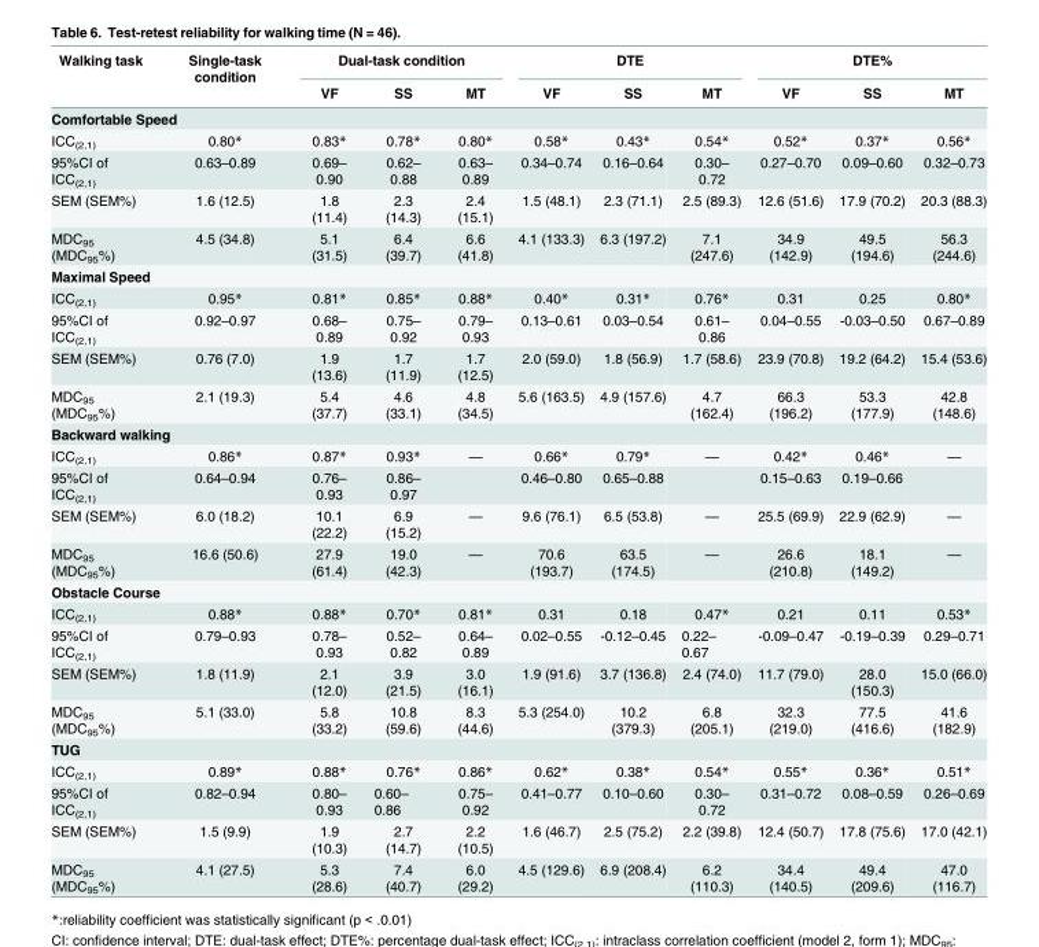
<table><thead><tr><td rowspan="2">Walking task</td><td rowspan="2">Single-task condition</td><td colspan="3">Dual-task condition</td><td colspan="3">DTE</td><td colspan="3">DTE%</td></tr><tr><td>VF</td><td>SS</td><td>MT</td><td>VF</td><td>SS</td><td>MT</td><td>VF</td><td>SS</td><td>MT</td></tr></thead><tbody><tr><td colspan="11">Comfortable Speed</td></tr><tr><td>ICC<sub>(2,1)</sub></td><td>0.80*</td><td>0.83*</td><td>0.78*</td><td>0.80*</td><td>0.58*</td><td>0.43*</td><td>0.54*</td><td>0.52*</td><td>0.37*</td><td>0.56*</td></tr><tr><td>95%CI of ICC<sub>(2,1)</sub></td><td>0.63–0.89</td><td>0.69– 0.90</td><td>0.62– 0.88</td><td>0.63– 0.89</td><td>0.34–0.74</td><td>0.16–0.64</td><td>0.30– 0.72</td><td>0.27–0.70</td><td>0.09–0.60</td><td>0.32–0.73</td></tr><tr><td>SEM (SEM%)</td><td>1.6 (12.5)</td><td>1.8 (11.4)</td><td>2.3 (14.3)</td><td>2.4 (15.1)</td><td>1.5 (48.1)</td><td>2.3 (71.1)</td><td>2.5 (89.3)</td><td>12.6 (51.6)</td><td>17.9 (70.2)</td><td>20.3 (88.3)</td></tr><tr><td>MDC<sub>95</sub> (MDC<sub>95</sub>%)</td><td>4.5 (34.8)</td><td>5.1 (31.5)</td><td>6.4 (39.7)</td><td>6.6 (41.8)</td><td>4.1 (133.3)</td><td>6.3 (197.2)</td><td>7.1 (247.6)</td><td>34.9 (142.9)</td><td>49.5 (194.6)</td><td>56.3 (244.6)</td></tr><tr><td colspan="11">Maximal Speed</td></tr><tr><td>ICC<sub>(2,1)</sub></td><td>0.95*</td><td>0.81*</td><td>0.85*</td><td>0.88*</td><td>0.40*</td><td>0.31*</td><td>0.76*</td><td>0.31</td><td>0.25</td><td>0.80*</td></tr><tr><td>95%CI of ICC<sub>(2,1)</sub></td><td>0.92–0.97</td><td>0.68– 0.89</td><td>0.75– 0.92</td><td>0.79– 0.93</td><td>0.13–0.61</td><td>0.03–0.54</td><td>0.61– 0.86</td><td>0.04–0.55</td><td>-0.03–0.50</td><td>0.67–0.89</td></tr><tr><td>SEM (SEM%)</td><td>0.76 (7.0)</td><td>1.9 (13.6)</td><td>1.7 (11.9)</td><td>1.7 (12.5)</td><td>2.0 (59.0)</td><td>1.8 (56.9)</td><td>1.7 (58.6)</td><td>23.9 (70.8)</td><td>19.2 (64.2)</td><td>15.4 (53.6)</td></tr><tr><td>MDC<sub>95</sub> (MDC<sub>95</sub>%)</td><td>2.1 (19.3)</td><td>5.4 (37.7)</td><td>4.6 (33.1)</td><td>4.8 (34.5)</td><td>5.6 (163.5)</td><td>4.9 (157.6)</td><td>4.7 (162.4)</td><td>66.3 (196.2)</td><td>53.3 (177.9)</td><td>42.8 (148.6)</td></tr><tr><td colspan="11">Backward walking</td></tr><tr><td>ICC<sub>(2,1)</sub></td><td>0.86*</td><td>0.87*</td><td>0.93*</td><td>—</td><td>0.66*</td><td>0.79*</td><td>—</td><td>0.42*</td><td>0.46*</td><td>—</td></tr><tr><td>95%CI of ICC<sub>(2,1)</sub></td><td>0.64–0.94</td><td>0.76– 0.93</td><td>0.86– 0.97</td><td></td><td>0.46–0.80</td><td>0.65–0.88</td><td></td><td>0.15–0.63</td><td>0.19–0.66</td><td></td></tr><tr><td>SEM (SEM%)</td><td>6.0 (18.2)</td><td>10.1 (22.2)</td><td>6.9 (15.2)</td><td>—</td><td>9.6 (76.1)</td><td>6.5 (53.8)</td><td>—</td><td>25.5 (69.9)</td><td>22.9 (62.9)</td><td>—</td></tr><tr><td>MDC<sub>95</sub> (MDC<sub>95</sub>%)</td><td>16.6 (50.6)</td><td>27.9 (61.4)</td><td>19.0 (42.3)</td><td>—</td><td>70.6 (193.7)</td><td>63.5 (174.5)</td><td>—</td><td>26.6 (210.8)</td><td>18.1 (149.2)</td><td>—</td></tr><tr><td colspan="11">Obstacle Course</td></tr><tr><td>ICC<sub>(2,1)</sub></td><td>0.88*</td><td>0.88*</td><td>0.70*</td><td>0.81*</td><td>0.31</td><td>0.18</td><td>0.47*</td><td>0.21</td><td>0.11</td><td>0.53*</td></tr><tr><td>95%CI of ICC<sub>(2,1)</sub></td><td>0.79–0.93</td><td>0.78– 0.93</td><td>0.52– 0.82</td><td>0.64– 0.89</td><td>0.02–0.55</td><td>-0.12–0.45</td><td>0.22– 0.67</td><td>-0.09–0.47</td><td>-0.19–0.39</td><td>0.29–0.71</td></tr><tr><td>SEM (SEM%)</td><td>1.8 (11.9)</td><td>2.1 (12.0)</td><td>3.9 (21.5)</td><td>3.0 (16.1)</td><td>1.9 (91.6)</td><td>3.7 (136.8)</td><td>2.4 (74.0)</td><td>11.7 (79.0)</td><td>28.0 (150.3)</td><td>15.0 (66.0)</td></tr><tr><td>MDC<sub>95</sub> (MDC<sub>95</sub>%)</td><td>5.1 (33.0)</td><td>5.8 (33.2)</td><td>10.8 (59.6)</td><td>8.3 (44.6)</td><td>5.3 (254.0)</td><td>10.2 (379.3)</td><td>6.8 (205.1)</td><td>32.3 (219.0)</td><td>77.5 (416.6)</td><td>41.6 (182.9)</td></tr><tr><td colspan="11">TUG</td></tr><tr><td>ICC<sub>(2,1)</sub></td><td>0.89*</td><td>0.88*</td><td>0.76*</td><td>0.86*</td><td>0.62*</td><td>0.38*</td><td>0.54*</td><td>0.55*</td><td>0.36*</td><td>0.51*</td></tr><tr><td>95%CI of ICC<sub>(2,1)</sub></td><td>0.82–0.94</td><td>0.80– 0.93</td><td>0.60– 0.86</td><td>0.75– 0.92</td><td>0.41–0.77</td><td>0.10–0.60</td><td>0.30– 0.72</td><td>0.31–0.72</td><td>0.08–0.59</td><td>0.26–0.69</td></tr><tr><td>SEM (SEM%)</td><td>1.5 (9.9)</td><td>1.9 (10.3)</td><td>2.7 (14.7)</td><td>2.2 (10.5)</td><td>1.6 (46.7)</td><td>2.5 (75.2)</td><td>2.2 (39.8)</td><td>12.4 (50.7)</td><td>17.8 (75.6)</td><td>17.0 (42.1)</td></tr><tr><td>MDC<sub>95</sub> (MDC<sub>95</sub>%)</td><td>4.1 (27.5)</td><td>5.3 (28.6)</td><td>7.4 (40.7)</td><td>6.0 (29.2)</td><td>4.5 (129.6)</td><td>6.9 (208.4)</td><td>6.2 (110.3)</td><td>34.4 (140.5)</td><td>49.4 (209.6)</td><td>47.0 (116.7)</td></tr></tbody></table>